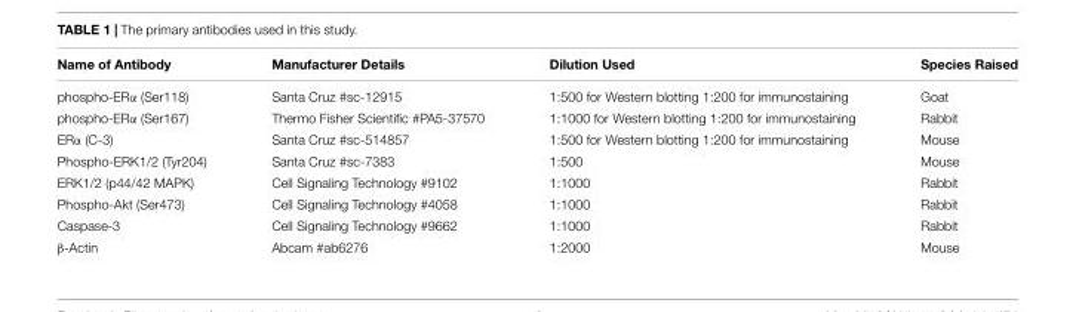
<table><thead><tr><td>Name of Antibody</td><td>Manufacturer Details</td><td>Dilution Used</td><td>Species Raised</td></tr></thead><tbody><tr><td>phospho-ERα (Ser118)</td><td>Santa Cruz #sc-12915</td><td>1:500 for Western blotting 1:200 for immunostaining</td><td>Goat</td></tr><tr><td>phospho-ERα (Ser167)</td><td>Thermo Fisher Scientific #PA5-37570</td><td>1:1000 for Western blotting 1:200 for immunostaining</td><td>Rabbit</td></tr><tr><td>ERα (C-3)</td><td>Santa Cruz #sc-514857</td><td>1:500 for Western blotting 1:200 for immunostaining</td><td>Mouse</td></tr><tr><td>Phospho-ERK1/2 (Tyr204)</td><td>Santa Cruz #sc-7383</td><td>1:500</td><td>Mouse</td></tr><tr><td>ERK1/2 (p44/42 MAPK)</td><td>Cell Signaling Technology #9102</td><td>1:1000</td><td>Rabbit</td></tr><tr><td>Phospho-Akt (Ser473)</td><td>Cell Signaling Technology #4058</td><td>1:1000</td><td>Rabbit</td></tr><tr><td>Caspase-3</td><td>Cell Signaling Technology #9662</td><td>1:1000</td><td>Rabbit</td></tr><tr><td>β-Actin</td><td>Abcam #ab6276</td><td>1:2000</td><td>Mouse</td></tr></tbody></table>